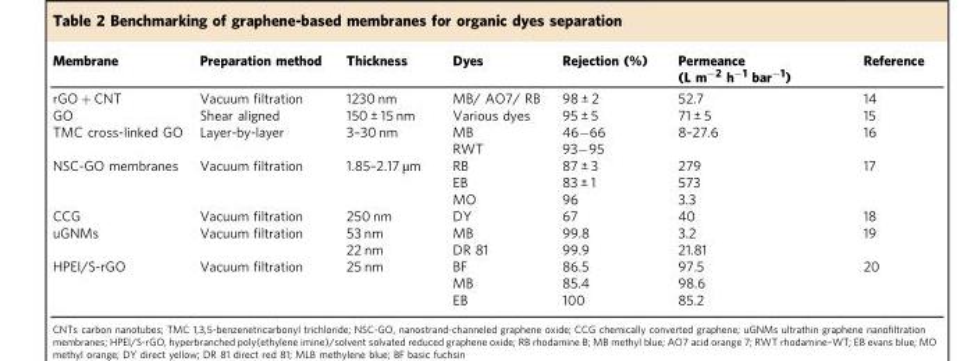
<table><thead><tr><td>Membrane</td><td>Preparation method</td><td>Thickness</td><td>Dyes</td><td>Rejection (%)</td><td>Permeance (L m<sup>−2</sup> h<sup>−1</sup> bar<sup>−1</sup>)</td><td>Reference</td></tr></thead><tbody><tr><td>rGO + CNT</td><td>Vacuum filtration</td><td>1230 nm</td><td>MB/ AO7/ RB</td><td>98 ± 2</td><td>52.7</td><td>14</td></tr><tr><td>GO</td><td>Shear aligned</td><td>150 ± 15 nm</td><td>Various dyes</td><td>95 ± 5</td><td>71 ± 5</td><td>15</td></tr><tr><td rowspan="2">TMC cross-linked GO</td><td rowspan="2">Layer-by-layer</td><td rowspan="2">3–30 nm</td><td>MB</td><td>46−66</td><td rowspan="2">8–27.6</td><td rowspan="2">16</td></tr><tr><td>RWT</td><td>93−95</td></tr><tr><td rowspan="3">NSC-GO membranes</td><td rowspan="3">Vacuum filtration</td><td rowspan="3">1.85–2.17 µm</td><td>RB</td><td>87 ± 3</td><td>279</td><td rowspan="3">17</td></tr><tr><td>EB</td><td>83 ± 1</td><td>573</td></tr><tr><td>MO</td><td>96</td><td>3.3</td></tr><tr><td>CCG</td><td>Vacuum filtration</td><td>250 nm</td><td>DY</td><td>67</td><td>40</td><td>18</td></tr><tr><td rowspan="2">uGNMs</td><td rowspan="2">Vacuum filtration</td><td>53 nm</td><td>MB</td><td>99.8</td><td>3.2</td><td rowspan="2">19</td></tr><tr><td>22 nm</td><td>DR 81</td><td>99.9</td><td>21.81</td></tr><tr><td rowspan="3">HPEI/S-rGO</td><td rowspan="3">Vacuum filtration</td><td rowspan="3">25 nm</td><td>BF</td><td>86.5</td><td>97.5</td><td rowspan="3">20</td></tr><tr><td>MB</td><td>85.4</td><td>98.6</td></tr><tr><td>EB</td><td>100</td><td>85.2</td></tr></tbody></table>